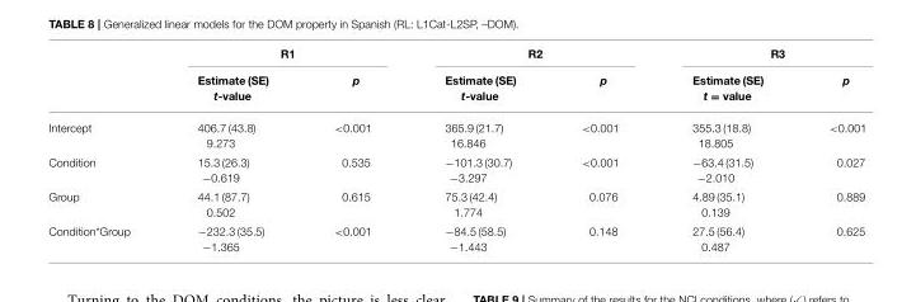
<table><thead><tr><td rowspan="2"></td><td colspan="2">R1</td><td colspan="2">R2</td><td colspan="2">R3</td></tr><tr><td>Estimate (SE) t-value</td><td>p</td><td>Estimate (SE) t-value</td><td>p</td><td>Estimate (SE) t = value</td><td>p</td></tr></thead><tbody><tr><td>Intercept</td><td>406.7 (43.8) 9.273</td><td>&lt;0.001</td><td>365.9 (21.7) 16.846</td><td>&lt;0.001</td><td>355.3 (18.8) 18.805</td><td>&lt;0.001</td></tr><tr><td>Condition</td><td>15.3 (26.3) −0.619</td><td>0.535</td><td>−101.3 (30.7) −3.297</td><td>&lt;0.001</td><td>−63.4 (31.5) −2.010</td><td>0.027</td></tr><tr><td>Group</td><td>44.1 (87.7) 0.502</td><td>0.615</td><td>75.3 (42.4) 1.774</td><td>0.076</td><td>4.89 (35.1) 0.139</td><td>0.889</td></tr><tr><td>Condition*Group</td><td>−232.3 (35.5) −1.365</td><td>&lt;0.001</td><td>−84.5 (58.5) −1.443</td><td>0.148</td><td>27.5 (56.4) 0.487</td><td>0.625</td></tr></tbody></table>